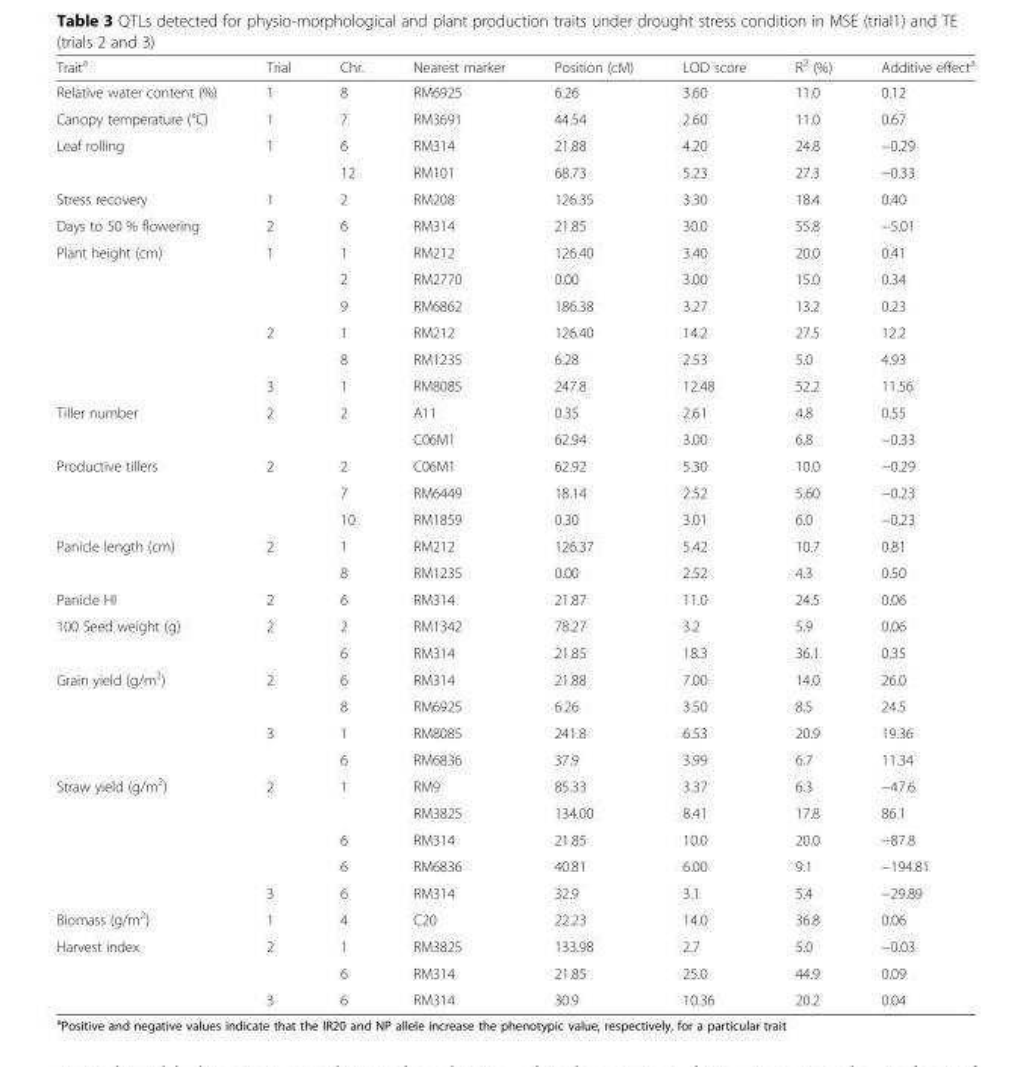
<table><thead><tr><td>Trait<sup>a</sup></td><td>Trial</td><td>Chr.</td><td>Nearest marker</td><td>Position (cM)</td><td>LOD score</td><td>R<sup>2</sup> (%)</td><td>Additive effect<sup>a</sup></td></tr></thead><tbody><tr><td>Relative water content (%)</td><td>1</td><td>8</td><td>RM6925</td><td>6.26</td><td>3.60</td><td>11.0</td><td>0.12</td></tr><tr><td>Canopy temperature (°C)</td><td>1</td><td>7</td><td>RM3691</td><td>44.54</td><td>2.60</td><td>11.0</td><td>0.67</td></tr><tr><td rowspan="2">Leaf rolling</td><td rowspan="2">1</td><td>6</td><td>RM314</td><td>21.88</td><td>4.20</td><td>24.8</td><td>−0.29</td></tr><tr><td>12</td><td>RM101</td><td>68.73</td><td>5.23</td><td>27.3</td><td>−0.33</td></tr><tr><td>Stress recovery</td><td>1</td><td>2</td><td>RM208</td><td>126.35</td><td>3.30</td><td>18.4</td><td>0.40</td></tr><tr><td>Days to 50 % flowering</td><td>2</td><td>6</td><td>RM314</td><td>21.85</td><td>30.0</td><td>55.8</td><td>−5.01</td></tr><tr><td rowspan="6">Plant height (cm)</td><td rowspan="3">1</td><td>1</td><td>RM212</td><td>126.40</td><td>3.40</td><td>20.0</td><td>0.41</td></tr><tr><td>2</td><td>RM2770</td><td>0.00</td><td>3.00</td><td>15.0</td><td>0.34</td></tr><tr><td>9</td><td>RM6862</td><td>186.38</td><td>3.27</td><td>13.2</td><td>0.23</td></tr><tr><td rowspan="2">2</td><td>1</td><td>RM212</td><td>126.40</td><td>14.2</td><td>27.5</td><td>12.2</td></tr><tr><td>8</td><td>RM1235</td><td>6.28</td><td>2.53</td><td>5.0</td><td>4.93</td></tr><tr><td>3</td><td>1</td><td>RM8085</td><td>247.8</td><td>12.48</td><td>52.2</td><td>11.56</td></tr><tr><td rowspan="2">Tiller number</td><td rowspan="2">2</td><td rowspan="2">2</td><td>A11</td><td>0.35</td><td>2.61</td><td>4.8</td><td>0.55</td></tr><tr><td>C06M1</td><td>62.94</td><td>3.00</td><td>6.8</td><td>−0.33</td></tr><tr><td rowspan="3">Productive tillers</td><td rowspan="3">2</td><td>2</td><td>C06M1</td><td>62.92</td><td>5.30</td><td>10.0</td><td>−0.29</td></tr><tr><td>7</td><td>RM6449</td><td>18.14</td><td>2.52</td><td>5.60</td><td>−0.23</td></tr><tr><td>10</td><td>RM1859</td><td>0.30</td><td>3.01</td><td>6.0</td><td>−0.23</td></tr><tr><td rowspan="2">Panicle length (cm)</td><td rowspan="2">2</td><td>1</td><td>RM212</td><td>126.37</td><td>5.42</td><td>10.7</td><td>0.81</td></tr><tr><td>8</td><td>RM1235</td><td>0.00</td><td>2.52</td><td>4.3</td><td>0.50</td></tr><tr><td>Panicle HI</td><td>2</td><td>6</td><td>RM314</td><td>21.87</td><td>11.0</td><td>24.5</td><td>0.06</td></tr><tr><td rowspan="2">100 Seed weight (g)</td><td rowspan="2">2</td><td>2</td><td>RM1342</td><td>78.27</td><td>3.2</td><td>5.9</td><td>0.06</td></tr><tr><td>6</td><td>RM314</td><td>21.85</td><td>18.3</td><td>36.1</td><td>0.35</td></tr><tr><td rowspan="4">Grain yield (g/m<sup>2</sup>)</td><td rowspan="2">2</td><td>6</td><td>RM314</td><td>21.88</td><td>7.00</td><td>14.0</td><td>26.0</td></tr><tr><td>8</td><td>RM6925</td><td>6.26</td><td>3.50</td><td>8.5</td><td>24.5</td></tr><tr><td rowspan="2">3</td><td>1</td><td>RM8085</td><td>241.8</td><td>6.53</td><td>20.9</td><td>19.36</td></tr><tr><td>6</td><td>RM6836</td><td>37.9</td><td>3.99</td><td>6.7</td><td>11.34</td></tr><tr><td rowspan="5">Straw yield (g/m<sup>2</sup>)</td><td rowspan="4">2</td><td rowspan="2">1</td><td>RM9</td><td>85.33</td><td>3.37</td><td>6.3</td><td>−47.6</td></tr><tr><td>RM3825</td><td>134.00</td><td>8.41</td><td>17.8</td><td>86.1</td></tr><tr><td>6</td><td>RM314</td><td>21.85</td><td>10.0</td><td>20.0</td><td>−87.8</td></tr><tr><td>6</td><td>RM6836</td><td>40.81</td><td>6.00</td><td>9.1</td><td>−194.81</td></tr><tr><td>3</td><td>6</td><td>RM314</td><td>32.9</td><td>3.1</td><td>5.4</td><td>−29.89</td></tr><tr><td>Biomass (g/m<sup>2</sup>)</td><td>1</td><td>4</td><td>C20</td><td>22.23</td><td>14.0</td><td>36.8</td><td>0.06</td></tr><tr><td rowspan="3">Harvest index</td><td rowspan="2">2</td><td>1</td><td>RM3825</td><td>133.98</td><td>2.7</td><td>5.0</td><td>−0.03</td></tr><tr><td>6</td><td>RM314</td><td>21.85</td><td>25.0</td><td>44.9</td><td>0.09</td></tr><tr><td>3</td><td>6</td><td>RM314</td><td>30.9</td><td>10.36</td><td>20.2</td><td>0.04</td></tr></tbody></table>